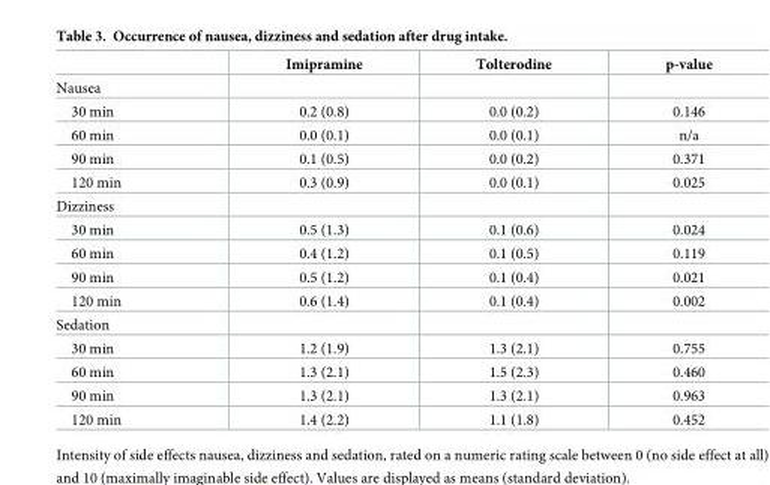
<table><thead><tr><td></td><td>Imipramine</td><td>Tolterodine</td><td>p-value</td></tr></thead><tbody><tr><td colspan="4">Nausea</td></tr><tr><td>30 min</td><td>0.2 (0.8)</td><td>0.0 (0.2)</td><td>0.146</td></tr><tr><td>60 min</td><td>0.0 (0.1)</td><td>0.0 (0.1)</td><td>n/a</td></tr><tr><td>90 min</td><td>0.1 (0.5)</td><td>0.0 (0.2)</td><td>0.371</td></tr><tr><td>120 min</td><td>0.3 (0.9)</td><td>0.0 (0.1)</td><td>0.025</td></tr><tr><td colspan="4">Dizziness</td></tr><tr><td>30 min</td><td>0.5 (1.3)</td><td>0.1 (0.6)</td><td>0.024</td></tr><tr><td>60 min</td><td>0.4 (1.2)</td><td>0.1 (0.5)</td><td>0.119</td></tr><tr><td>90 min</td><td>0.5 (1.2)</td><td>0.1 (0.4)</td><td>0.021</td></tr><tr><td>120 min</td><td>0.6 (1.4)</td><td>0.1 (0.4)</td><td>0.002</td></tr><tr><td colspan="4">Sedation</td></tr><tr><td>30 min</td><td>1.2 (1.9)</td><td>1.3 (2.1)</td><td>0.755</td></tr><tr><td>60 min</td><td>1.3 (2.1)</td><td>1.5 (2.3)</td><td>0.460</td></tr><tr><td>90 min</td><td>1.3 (2.1)</td><td>1.3 (2.1)</td><td>0.963</td></tr><tr><td>120 min</td><td>1.4 (2.2)</td><td>1.1 (1.8)</td><td>0.452</td></tr></tbody></table>